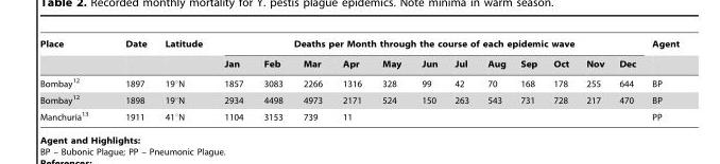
<table><thead><tr><td rowspan="2">Place</td><td rowspan="2">Date</td><td rowspan="2">Latitude</td><td colspan="12">Deaths per Month through the course of each epidemic wave</td><td rowspan="2">Agent</td></tr><tr><td>Jan</td><td>Feb</td><td>Mar</td><td>Apr</td><td>May</td><td>Jun</td><td>Jul</td><td>Aug</td><td>Sep</td><td>Oct</td><td>Nov</td><td>Dec</td></tr></thead><tbody><tr><td>Bombay<sup>12</sup></td><td>1897</td><td>19°N</td><td>1857</td><td>3083</td><td>2266</td><td>1316</td><td>328</td><td>99</td><td>42</td><td>70</td><td>168</td><td>178</td><td>255</td><td>644</td><td>BP</td></tr><tr><td>Bombay<sup>12</sup></td><td>1898</td><td>19°N</td><td>2934</td><td>4498</td><td>4973</td><td>2171</td><td>524</td><td>150</td><td>263</td><td>543</td><td>731</td><td>728</td><td>217</td><td>470</td><td>BP</td></tr><tr><td>Manchuria<sup>13</sup></td><td>1911</td><td>41°N</td><td>1104</td><td>3153</td><td>739</td><td>11</td><td></td><td></td><td></td><td></td><td></td><td></td><td></td><td></td><td>PP</td></tr></tbody></table>